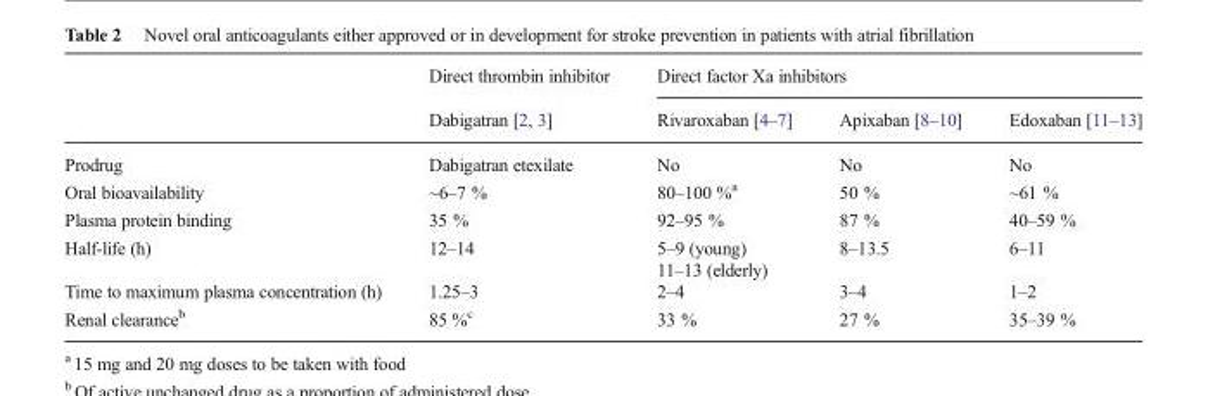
<table><thead><tr><td rowspan="2"></td><td rowspan="2">Direct thrombin inhibitor Dabigatran [2, 3]</td><td colspan="3">Direct factor Xa inhibitors</td></tr><tr><td>Rivaroxaban [4–7]</td><td>Apixaban [8–10]</td><td>Edoxaban [11–13]</td></tr></thead><tbody><tr><td>Prodrug</td><td>Dabigatran etexilate</td><td>No</td><td>No</td><td>No</td></tr><tr><td>Oral bioavailability</td><td>~6–7 %</td><td>80–100 %<sup>a</sup></td><td>50 %</td><td>~61 %</td></tr><tr><td>Plasma protein binding</td><td>35 %</td><td>92–95 %</td><td>87 %</td><td>40–59 %</td></tr><tr><td>Half-life (h)</td><td>12–14</td><td>5–9 (young) 11–13 (elderly)</td><td>8–13.5</td><td>6–11</td></tr><tr><td>Time to maximum plasma concentration (h)</td><td>1.25–3</td><td>2–4</td><td>3–4</td><td>1–2</td></tr><tr><td>Renal clearance<sup>b</sup></td><td>85 %<sup>c</sup></td><td>33 %</td><td>27 %</td><td>35–39 %</td></tr></tbody></table>